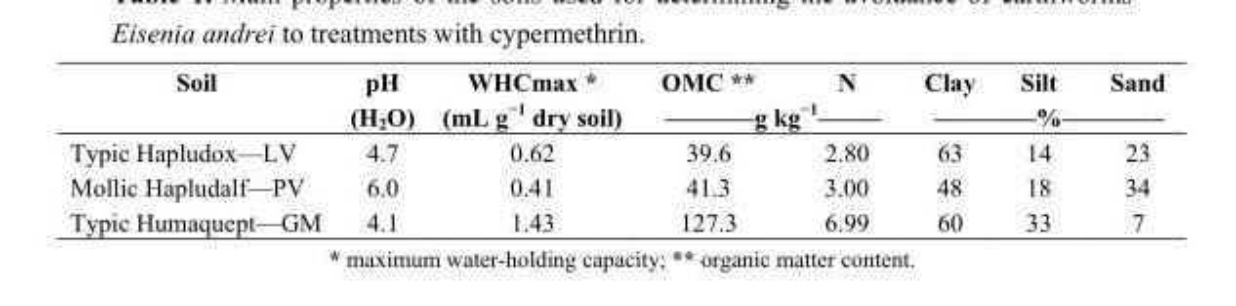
<table><thead><tr><td rowspan="2">Soil</td><td rowspan="2">pH (H<sub>2</sub>O)</td><td rowspan="2">WHCmax * (mL g<sup>−1</sup> dry soil)</td><td>OMC **</td><td>N</td><td>Clay</td><td>Silt</td><td>Sand</td></tr><tr><td colspan="2">–––––––g kg<sup>−1</sup>–––––</td><td colspan="3">––––––––%––––––––</td></tr></thead><tbody><tr><td>Typic Hapludox—LV</td><td>4.7</td><td>0.62</td><td>39.6</td><td>2.80</td><td>63</td><td>14</td><td>23</td></tr><tr><td>Mollic Hapludalf—PV</td><td>6.0</td><td>0.41</td><td>41.3</td><td>3.00</td><td>48</td><td>18</td><td>34</td></tr><tr><td>Typic Humaquept—GM</td><td>4.1</td><td>1.43</td><td>127.3</td><td>6.99</td><td>60</td><td>33</td><td>7</td></tr></tbody></table>